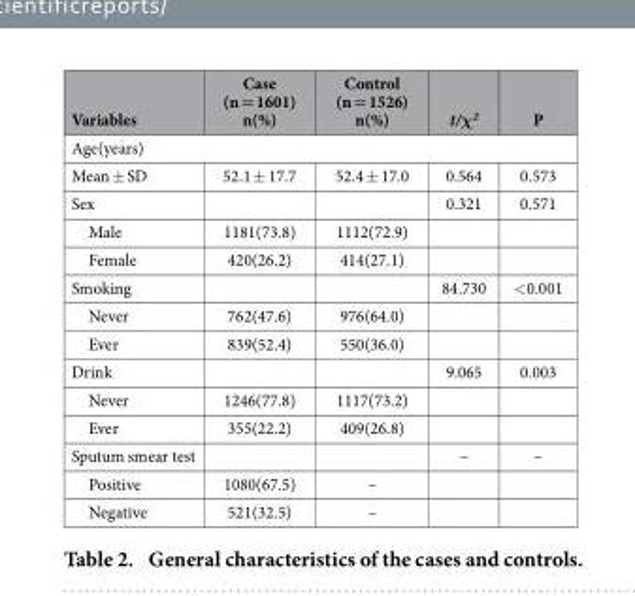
<table><thead><tr><td>Variables</td><td>Case (n = 1601) n(%)</td><td>Control (n = 1526) n(%)</td><td>t/χ<sup>2</sup></td><td>P</td></tr></thead><tbody><tr><td colspan="5">Age(years)</td></tr><tr><td>Mean ± SD</td><td>52.1 ± 17.7</td><td>52.4 ± 17.0</td><td>0.564</td><td>0.573</td></tr><tr><td>Sex</td><td></td><td></td><td>0.321</td><td>0.571</td></tr><tr><td>Male</td><td>1181(73.8)</td><td>1112(72.9)</td><td></td><td></td></tr><tr><td>Female</td><td>420(26.2)</td><td>414(27.1)</td><td></td><td></td></tr><tr><td>Smoking</td><td></td><td></td><td>84.730</td><td>&lt; 0.001</td></tr><tr><td>Never</td><td>762(47.6)</td><td>976(64.0)</td><td></td><td></td></tr><tr><td>Ever</td><td>839(52.4)</td><td>550(36.0)</td><td></td><td></td></tr><tr><td>Drink</td><td></td><td></td><td>9.065</td><td>0.003</td></tr><tr><td>Never</td><td>1246(77.8)</td><td>1117(73.2)</td><td></td><td></td></tr><tr><td>Ever</td><td>355(22.2)</td><td>409(26.8)</td><td></td><td></td></tr><tr><td>Sputum smear test</td><td></td><td></td><td>–</td><td>–</td></tr><tr><td>Positive</td><td>1080(67.5)</td><td>–</td><td></td><td></td></tr><tr><td>Negative</td><td>521(32.5)</td><td>–</td><td></td><td></td></tr></tbody></table>